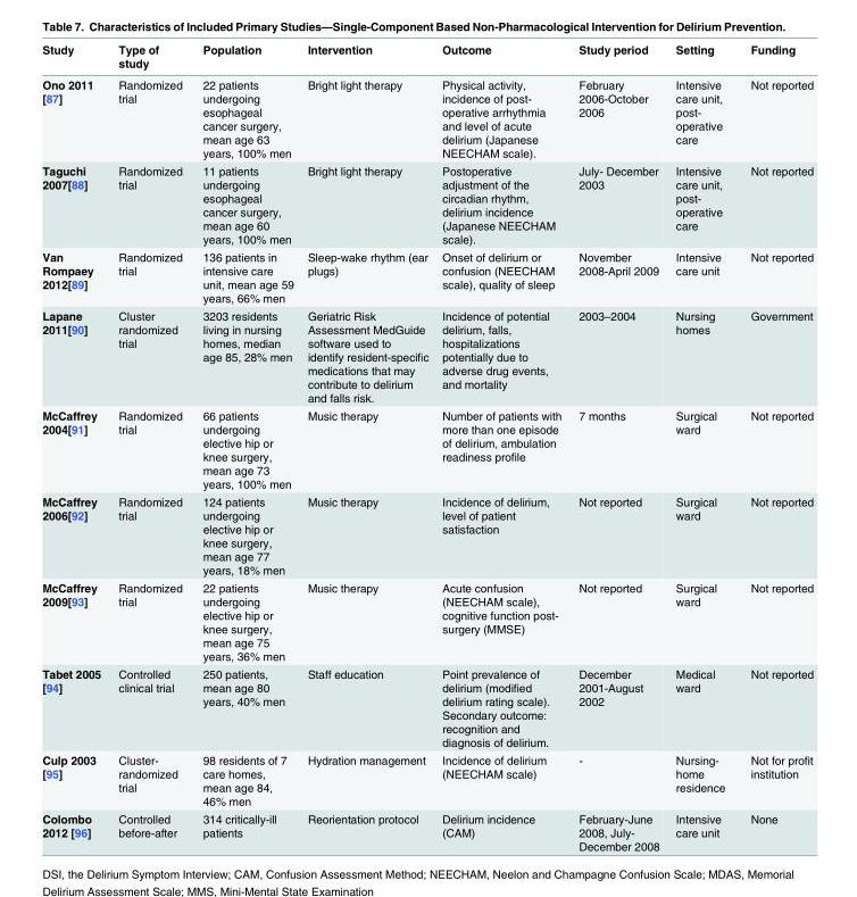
<table><thead><tr><td>Study</td><td>Type of study</td><td>Population</td><td>Intervention</td><td>Outcome</td><td>Study period</td><td>Setting</td><td>Funding</td></tr></thead><tbody><tr><td>Ono 2011 [87]</td><td>Randomized trial</td><td>22 patients undergoing esophageal cancer surgery, mean age 63 years, 100% men</td><td>Bright light therapy</td><td>Physical activity, incidence of post- operative arrhythmia and level of acute delirium (Japanese NEECHAM scale).</td><td>February 2006-October 2006</td><td>Intensive care unit, post- operative care</td><td>Not reported</td></tr><tr><td>Taguchi 2007[88]</td><td>Randomized trial</td><td>11 patients undergoing esophageal cancer surgery, mean age 60 years, 100% men</td><td>Bright light therapy</td><td>Postoperative adjustment of the circadian rhythm, delirium incidence (Japanese NEECHAM scale).</td><td>July- December 2003</td><td>Intensive care unit, post- operative care</td><td>Not reported</td></tr><tr><td>Van Rompaey 2012[89]</td><td>Randomized trial</td><td>136 patients in intensive care unit, mean age 59 years, 66% men</td><td>Sleep-wake rhythm (ear plugs)</td><td>Onset of delirium or confusion (NEECHAM scale), quality of sleep</td><td>November 2008-April 2009</td><td>Intensive care unit</td><td>Not reported</td></tr><tr><td>Lapane 2011[90]</td><td>Cluster randomized trial</td><td>3203 residents living in nursing homes, median age 85, 28% men</td><td>Geriatric Risk Assessment MedGuide software used to identify resident-specific medications that may contribute to delirium and falls risk.</td><td>Incidence of potential delirium, falls, hospitalizations potentially due to adverse drug events, and mortality</td><td>2003–2004</td><td>Nursing homes</td><td>Government</td></tr><tr><td>McCaffrey 2004[91]</td><td>Randomized trial</td><td>66 patients undergoing elective hip or knee surgery, mean age 73 years, 100% men</td><td>Music therapy</td><td>Number of patients with more than one episode of delirium, ambulation readiness profile</td><td>7 months</td><td>Surgical ward</td><td>Not reported</td></tr><tr><td>McCaffrey 2006[92]</td><td>Randomized trial</td><td>124 patients undergoing elective hip or knee surgery, mean age 77 years, 18% men</td><td>Music therapy</td><td>Incidence of delirium, level of patient satisfaction</td><td>Not reported</td><td>Surgical ward</td><td>Not reported</td></tr><tr><td>McCaffrey 2009[93]</td><td>Randomized trial</td><td>22 patients undergoing elective hip or knee surgery, mean age 75 years, 36% men</td><td>Music therapy</td><td>Acute confusion (NEECHAM scale), cognitive function post- surgery (MMSE)</td><td>Not reported</td><td>Surgical ward</td><td>Not reported</td></tr><tr><td>Tabet 2005 [94]</td><td>Controlled clinical trial</td><td>250 patients, mean age 80 years, 40% men</td><td>Staff education</td><td>Point prevalence of delirium (modified delirium rating scale). Secondary outcome: recognition and diagnosis of delirium.</td><td>December 2001-August 2002</td><td>Medical ward</td><td>Not reported</td></tr><tr><td>Culp 2003 [95]</td><td>Cluster- randomized trial</td><td>98 residents of 7 care homes, mean age 84, 46% men</td><td>Hydration management</td><td>Incidence of delirium (NEECHAM scale)</td><td>-</td><td>Nursing- home residence</td><td>Not for profit institution</td></tr><tr><td>Colombo 2012 [96]</td><td>Controlled before-after</td><td>314 critically-ill patients</td><td>Reorientation protocol</td><td>Delirium incidence (CAM)</td><td>February-June 2008, July- December 2008</td><td>Intensive care unit</td><td>None</td></tr></tbody></table>